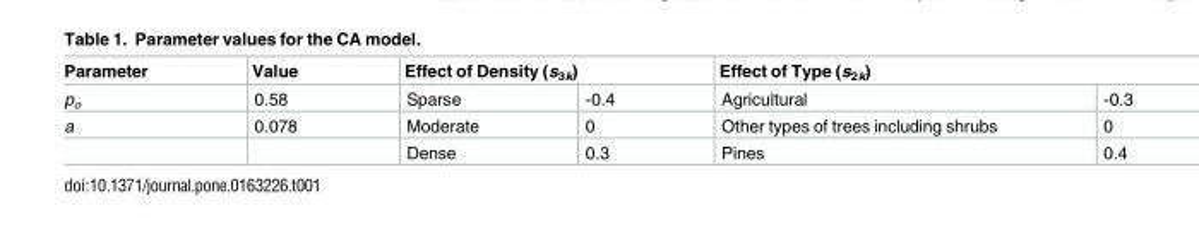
<table><thead><tr><td rowspan="2">Parameter p<sub>o</sub></td><td rowspan="2">Value 0.58</td><td colspan="2">Effect of Density (s<sub>3k</sub>)</td><td colspan="2">Effect of Type (s<sub>2k</sub>)</td></tr><tr><td>Sparse</td><td>-0.4</td><td>Agricultural</td><td>-0.3</td></tr></thead><tbody><tr><td rowspan="2">a</td><td>0.078</td><td>Moderate</td><td>0</td><td>Other types of trees including shrubs</td><td>0</td></tr><tr><td></td><td>Dense</td><td>0.3</td><td>Pines</td><td>0.4</td></tr></tbody></table>